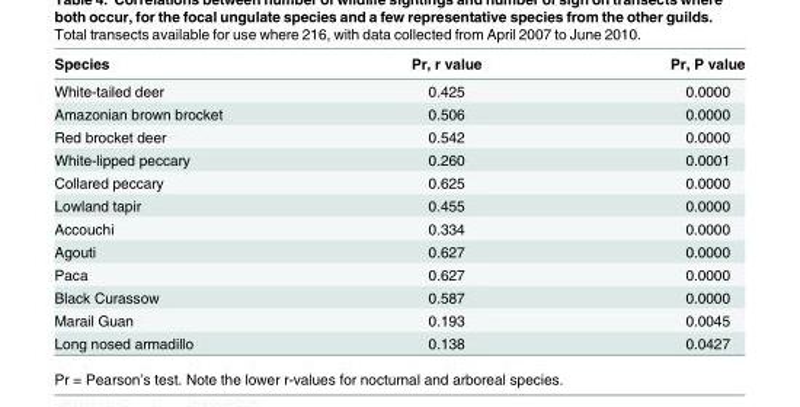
<table><thead><tr><td>Species</td><td>Pr, r value</td><td>Pr, P value</td></tr></thead><tbody><tr><td>White-tailed deer</td><td>0.425</td><td>0.0000</td></tr><tr><td>Amazonian brown brocket</td><td>0.506</td><td>0.0000</td></tr><tr><td>Red brocket deer</td><td>0.542</td><td>0.0000</td></tr><tr><td>White-lipped peccary</td><td>0.260</td><td>0.0001</td></tr><tr><td>Collared peccary</td><td>0.625</td><td>0.0000</td></tr><tr><td>Lowland tapir</td><td>0.455</td><td>0.0000</td></tr><tr><td>Accouchi</td><td>0.334</td><td>0.0000</td></tr><tr><td>Agouti</td><td>0.627</td><td>0.0000</td></tr><tr><td>Paca</td><td>0.627</td><td>0.0000</td></tr><tr><td>Black Curassow</td><td>0.587</td><td>0.0000</td></tr><tr><td>Marail Guan</td><td>0.193</td><td>0.0045</td></tr><tr><td>Long nosed armadillo</td><td>0.138</td><td>0.0427</td></tr></tbody></table>